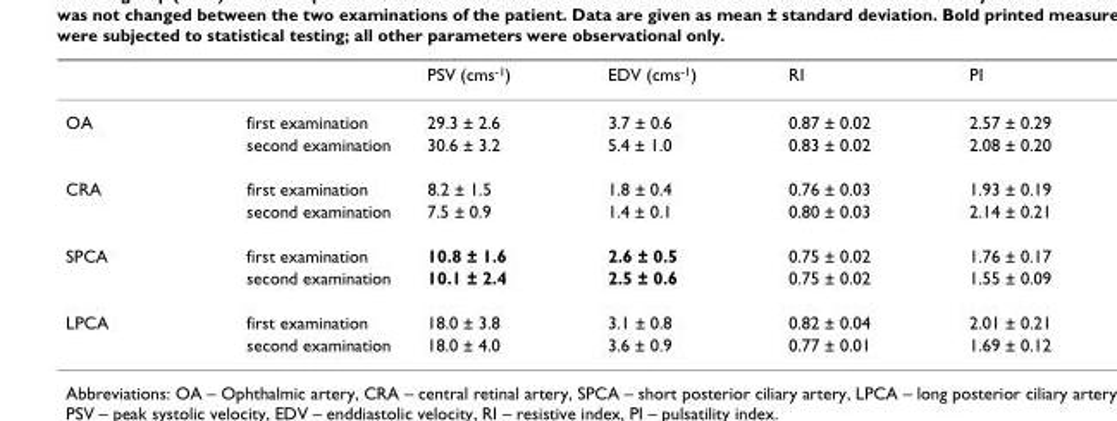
<table><thead><tr><td></td><td></td><td>PSV (cms-1)</td><td>EDV (cms-1)</td><td>RI</td><td>PI</td></tr></thead><tbody><tr><td rowspan="2">OA</td><td>first examination</td><td>29.3 ± 2.6</td><td>3.7 ± 0.6</td><td>0.87 ± 0.02</td><td>2.57 ± 0.29</td></tr><tr><td>second examination</td><td>30.6 ± 3.2</td><td>5.4 ± 1.0</td><td>0.83 ± 0.02</td><td>2.08 ± 0.20</td></tr><tr><td rowspan="2">CRA</td><td>first examination</td><td>8.2 ± 1.5</td><td>1.8 ± 0.4</td><td>0.76 ± 0.03</td><td>1.93 ± 0.19</td></tr><tr><td>second examination</td><td>7.5 ± 0.9</td><td>1.4 ± 0.1</td><td>0.80 ± 0.03</td><td>2.14 ± 0.21</td></tr><tr><td rowspan="2">SPCA</td><td>first examination</td><td>10.8 ± 1.6</td><td>2.6 ± 0.5</td><td>0.75 ± 0.02</td><td>1.76 ± 0.17</td></tr><tr><td>second examination</td><td>10.1 ± 2.4</td><td>2.5 ± 0.6</td><td>0.75 ± 0.02</td><td>1.55 ± 0.09</td></tr><tr><td rowspan="2">LPCA</td><td>first examination</td><td>18.0 ± 3.8</td><td>3.1 ± 0.8</td><td>0.82 ± 0.04</td><td>2.01 ± 0.21</td></tr><tr><td>second examination</td><td>18.0 ± 4.0</td><td>3.6 ± 0.9</td><td>0.77 ± 0.01</td><td>1.69 ± 0.12</td></tr></tbody></table>